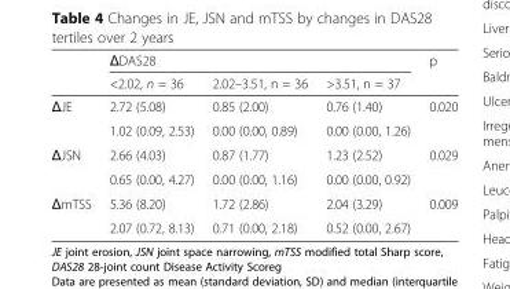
<table><thead><tr><td rowspan="2"></td><td colspan="3">ΔDAS28</td><td rowspan="2">p</td></tr><tr><td>&lt;2.02, n = 36</td><td>2.02–3.51, n = 36</td><td>&gt;3.51, n = 37</td></tr></thead><tbody><tr><td rowspan="2">ΔJE</td><td>2.72 (5.08)</td><td>0.85 (2.00)</td><td>0.76 (1.40)</td><td rowspan="2">0.020</td></tr><tr><td>1.02 (0.09, 2.53)</td><td>0.00 (0.00, 0.89)</td><td>0.00 (0.00, 1.26)</td></tr><tr><td rowspan="2">ΔJSN</td><td>2.66 (4.03)</td><td>0.87 (1.77)</td><td>1.23 (2.52)</td><td rowspan="2">0.029</td></tr><tr><td>0.65 (0.00, 4.27)</td><td>0.00 (0.00, 1.16)</td><td>0.00 (0.00, 0.92)</td></tr><tr><td rowspan="2">ΔmTSS</td><td>5.36 (8.20)</td><td>1.72 (2.86)</td><td>2.04 (3.29)</td><td rowspan="2">0.009</td></tr><tr><td>2.07 (0.72, 8.13)</td><td>0.71 (0.00, 2.18)</td><td>0.52 (0.00, 2.67)</td></tr></tbody></table>